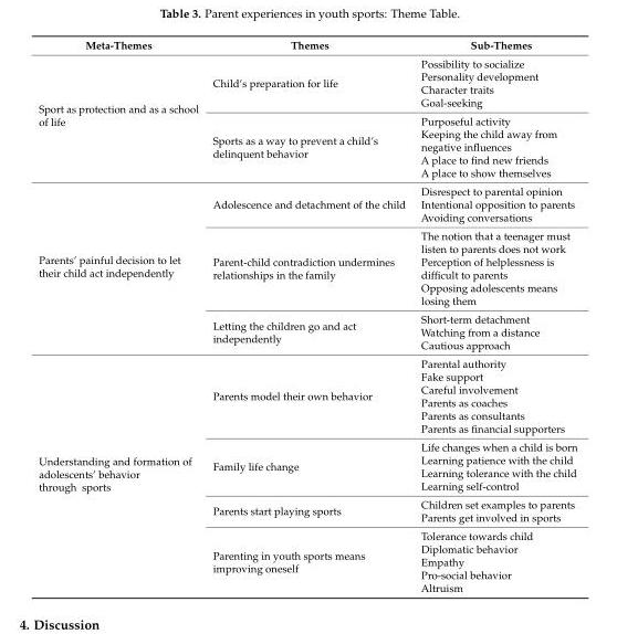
<table><thead><tr><td>Meta-Themes</td><td>Themes</td><td>Sub-Themes</td></tr></thead><tbody><tr><td rowspan="2">Sport as protection and as a school of life</td><td>Child’s preparation for life</td><td>Possibility to socialize Personality development Character traits Goal-seeking</td></tr><tr><td>Sports as a way to prevent a child’s delinquent behavior</td><td>Purposeful activity Keeping the child away from negative influences A place to find new friends A place to show themselves</td></tr><tr><td rowspan="3">Parents’ painful decision to let their child act independently</td><td>Adolescence and detachment of the child</td><td>Disrespect to parental opinion Intentional opposition to parents Avoiding conversations</td></tr><tr><td>Parent-child contradiction undermines relationships in the family</td><td>The notion that a teenager must listen to parents does not work Perception of helplessness is difficult to parents Opposing adolescents means losing them</td></tr><tr><td>Letting the children go and act independently</td><td>Short-term detachment Watching from a distance Cautious approach</td></tr><tr><td rowspan="4">Understanding and formation of adolescents’ behavior through sports</td><td>Parents model their own behavior</td><td>Parental authority Fake support Careful involvement Parents as coaches Parents as consultants Parents as financial supporters</td></tr><tr><td>Family life change</td><td>Life changes when a child is born Learning patience with the child Learning tolerance with the child Learning self-control</td></tr><tr><td>Parents start playing sports</td><td>Children set examples to parents Parents get involved in sports</td></tr><tr><td>Parenting in youth sports means improving oneself</td><td>Tolerance towards child Diplomatic behavior Empathy Pro-social behavior Altruism</td></tr></tbody></table>